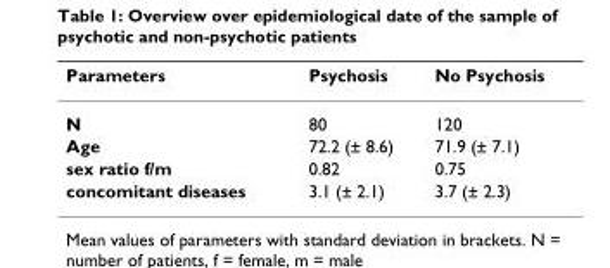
<table><thead><tr><td>Parameters</td><td>Psychosis</td><td>No Psychosis</td></tr></thead><tbody><tr><td>N</td><td>80</td><td>120</td></tr><tr><td>Age</td><td>72.2 (± 8.6)</td><td>71.9 (± 7.1)</td></tr><tr><td>sex ratio f/m</td><td>0.82</td><td>0.75</td></tr><tr><td>concomitant diseases</td><td>3.1 (± 2.1)</td><td>3.7 (± 2.3)</td></tr></tbody></table>